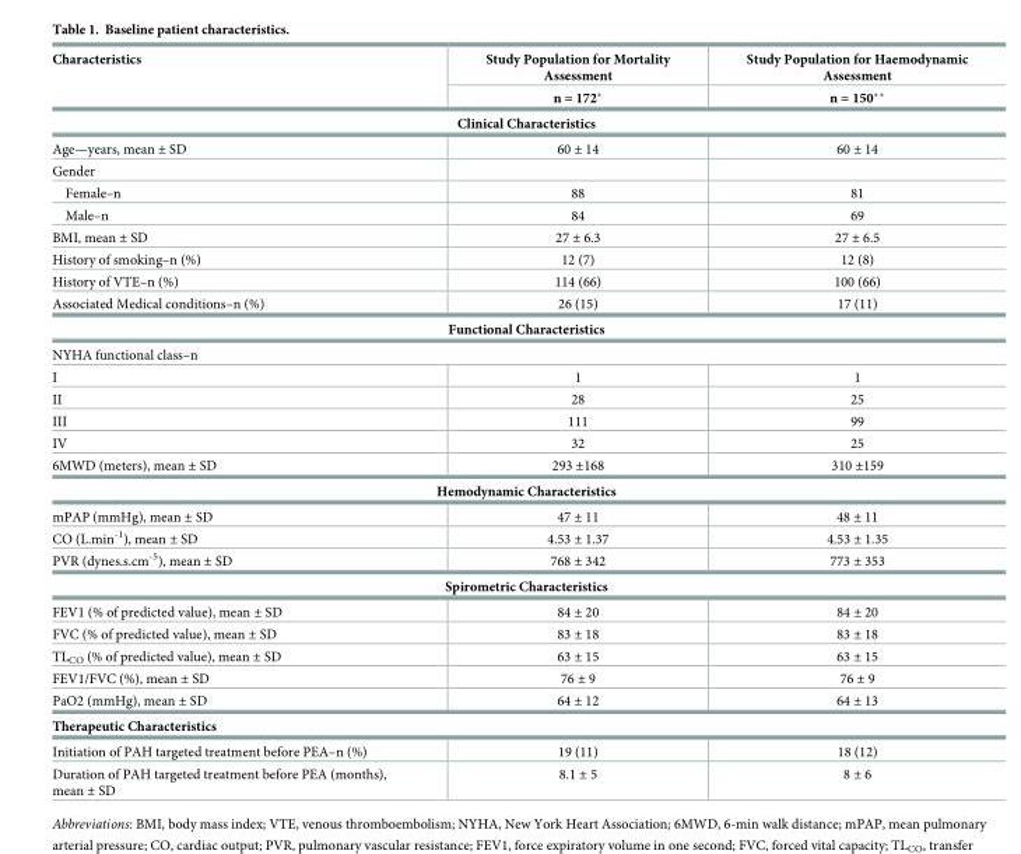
<table><thead><tr><td rowspan="2">Characteristics</td><td rowspan="2">Study Population for Mortality Assessment n = 172*</td><td rowspan="2">Study Population for Haemodynamic Assessment n = 150**</td></tr><tr></tr></thead><tbody><tr><td colspan="3">Clinical Characteristics</td></tr><tr><td>Age—years, mean ± SD</td><td>60 ± 14</td><td>60 ± 14</td></tr><tr><td colspan="3">Gender</td></tr><tr><td>Female–n</td><td>88</td><td>81</td></tr><tr><td>Male–n</td><td>84</td><td>69</td></tr><tr><td>BMI, mean ± SD</td><td>27 ± 6.3</td><td>27 ± 6.5</td></tr><tr><td>History of smoking–n (%)</td><td>12 (7)</td><td>12 (8)</td></tr><tr><td>History of VTE–n (%)</td><td>114 (66)</td><td>100 (66)</td></tr><tr><td>Associated Medical conditions–n (%)</td><td>26 (15)</td><td>17 (11)</td></tr><tr><td colspan="3">Functional Characteristics</td></tr><tr><td colspan="3">NYHA functional class–n</td></tr><tr><td>I</td><td>1</td><td>1</td></tr><tr><td>II</td><td>28</td><td>25</td></tr><tr><td>III</td><td>111</td><td>99</td></tr><tr><td>IV</td><td>32</td><td>25</td></tr><tr><td>6MWD (meters), mean ± SD</td><td>293 ±168</td><td>310 ±159</td></tr><tr><td colspan="3">Hemodynamic Characteristics</td></tr><tr><td>mPAP (mmHg), mean ± SD</td><td>47 ± 11</td><td>48 ± 11</td></tr><tr><td>CO (L.min<sup>-1</sup>), mean ± SD</td><td>4.53 ± 1.37</td><td>4.53 ± 1.35</td></tr><tr><td>PVR (dynes.s.cm<sup>-5</sup>), mean ± SD</td><td>768 ± 342</td><td>773 ± 353</td></tr><tr><td colspan="3">Spirometric Characteristics</td></tr><tr><td>FEV1 (% of predicted value), mean ± SD</td><td>84 ± 20</td><td>84 ± 20</td></tr><tr><td>FVC (% of predicted value), mean ± SD</td><td>83 ± 18</td><td>83 ± 18</td></tr><tr><td>TL<sub>CO</sub> (% of predicted value), mean ± SD</td><td>63 ± 15</td><td>63 ± 15</td></tr><tr><td>FEV1/FVC (%), mean ± SD</td><td>76 ± 9</td><td>76 ± 9</td></tr><tr><td>PaO2 (mmHg), mean ± SD</td><td>64 ± 12</td><td>64 ± 13</td></tr><tr><td colspan="3">Therapeutic Characteristics</td></tr><tr><td>Initiation of PAH targeted treatment before PEA–n (%)</td><td>19 (11)</td><td>18 (12)</td></tr><tr><td>Duration of PAH targeted treatment before PEA (months), mean ± SD</td><td>8.1 ± 5</td><td>8 ± 6</td></tr></tbody></table>